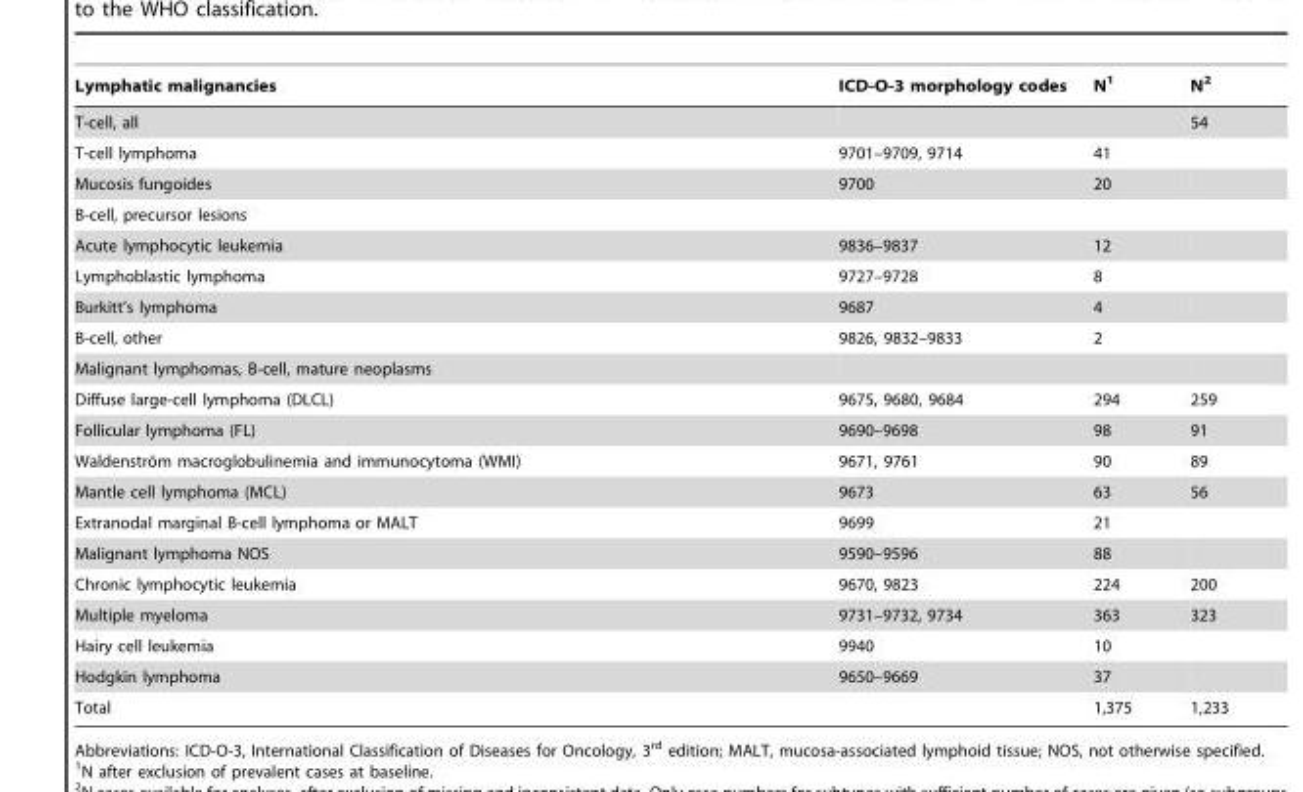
<table><thead><tr><td>Lymphatic malignancies</td><td>ICD-O-3 morphology codes</td><td>N<sup>1</sup></td><td>N<sup>2</sup></td></tr></thead><tbody><tr><td>T-cell, all</td><td></td><td></td><td>54</td></tr><tr><td>T-cell lymphoma</td><td>9701–9709, 9714</td><td>41</td><td></td></tr><tr><td>Mucosis fungoides</td><td>9700</td><td>20</td><td></td></tr><tr><td colspan="4">B-cell, precursor lesions</td></tr><tr><td>Acute lymphocytic leukemia</td><td>9836–9837</td><td>12</td><td></td></tr><tr><td>Lymphoblastic lymphoma</td><td>9727–9728</td><td>8</td><td></td></tr><tr><td>Burkitt’s lymphoma</td><td>9687</td><td>4</td><td></td></tr><tr><td>B-cell, other</td><td>9826, 9832–9833</td><td>2</td><td></td></tr><tr><td colspan="4">Malignant lymphomas, B-cell, mature neoplasms</td></tr><tr><td>Diffuse large-cell lymphoma (DLCL)</td><td>9675, 9680, 9684</td><td>294</td><td>259</td></tr><tr><td>Follicular lymphoma (FL)</td><td>9690–9698</td><td>98</td><td>91</td></tr><tr><td>Waldenstro¨m macroglobulinemia and immunocytoma (WMI)</td><td>9671, 9761</td><td>90</td><td>89</td></tr><tr><td>Mantle cell lymphoma (MCL)</td><td>9673</td><td>63</td><td>56</td></tr><tr><td>Extranodal marginal B-cell lymphoma or MALT</td><td>9699</td><td>21</td><td></td></tr><tr><td>Malignant lymphoma NOS</td><td>9590–9596</td><td>88</td><td></td></tr><tr><td>Chronic lymphocytic leukemia</td><td>9670, 9823</td><td>224</td><td>200</td></tr><tr><td>Multiple myeloma</td><td>9731–9732, 9734</td><td>363</td><td>323</td></tr><tr><td>Hairy cell leukemia</td><td>9940</td><td>10</td><td></td></tr><tr><td>Hodgkin lymphoma</td><td>9650–9669</td><td>37</td><td></td></tr><tr><td>Total</td><td></td><td>1,375</td><td>1,233</td></tr></tbody></table>